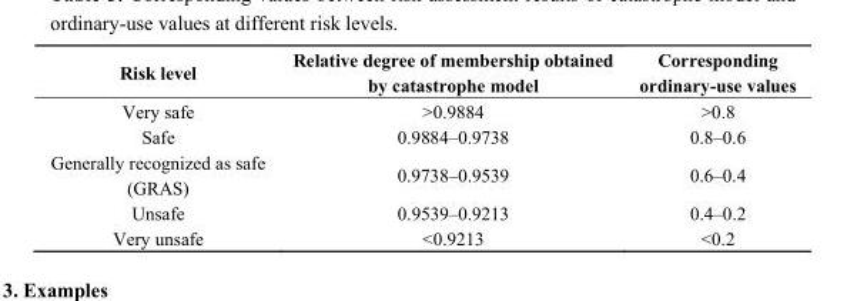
<table><thead><tr><td>Risk level</td><td>Relative degree of membership obtained by catastrophe model</td><td>Corresponding ordinary-use values</td></tr></thead><tbody><tr><td>Very safe</td><td>&gt;0.9884</td><td>&gt;0.8</td></tr><tr><td>Safe</td><td>0.9884–0.9738</td><td>0.8–0.6</td></tr><tr><td>Generally recognized as safe (GRAS)</td><td>0.9738–0.9539</td><td>0.6–0.4</td></tr><tr><td>Unsafe</td><td>0.9539–0.9213</td><td>0.4–0.2</td></tr><tr><td>Very unsafe</td><td>&lt;0.9213</td><td>&lt;0.2</td></tr></tbody></table>